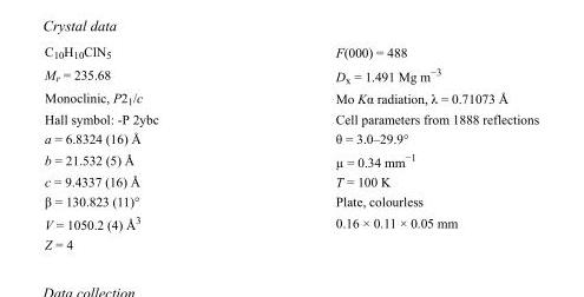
<table><tbody><tr><td>C<sub>10</sub>H<sub>10</sub>ClN<sub>5</sub></td><td>F(000) = 488</td></tr><tr><td>M<sub>r</sub> = 235.68</td><td>D<sub>x</sub> = 1.491 Mg m<sup>−3</sup></td></tr><tr><td>Monoclinic, P2<sub>1</sub>/c</td><td>Mo Kα radiation, λ = 0.71073 Å</td></tr><tr><td>Hall symbol: -P 2ybc</td><td>Cell parameters from 1888 reflections</td></tr><tr><td>a = 6.8324 (16) Å</td><td>θ = 3.0–29.9°</td></tr><tr><td>b = 21.532 (5) Å</td><td>µ = 0.34 mm<sup>−1</sup></td></tr><tr><td>c = 9.4337 (16) Å</td><td>T = 100 K</td></tr><tr><td>β = 130.823 (11)°</td><td>Plate, colourless</td></tr><tr><td>V = 1050.2 (4) Å<sup>3</sup></td><td>0.16 × 0.11 × 0.05 mm</td></tr><tr><td>Z = 4</td><td></td></tr></tbody></table>